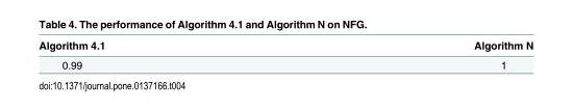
<table><thead><tr><td>Algorithm 4.1</td><td>Algorithm N</td></tr></thead><tbody><tr><td>0.99</td><td>1</td></tr></tbody></table>